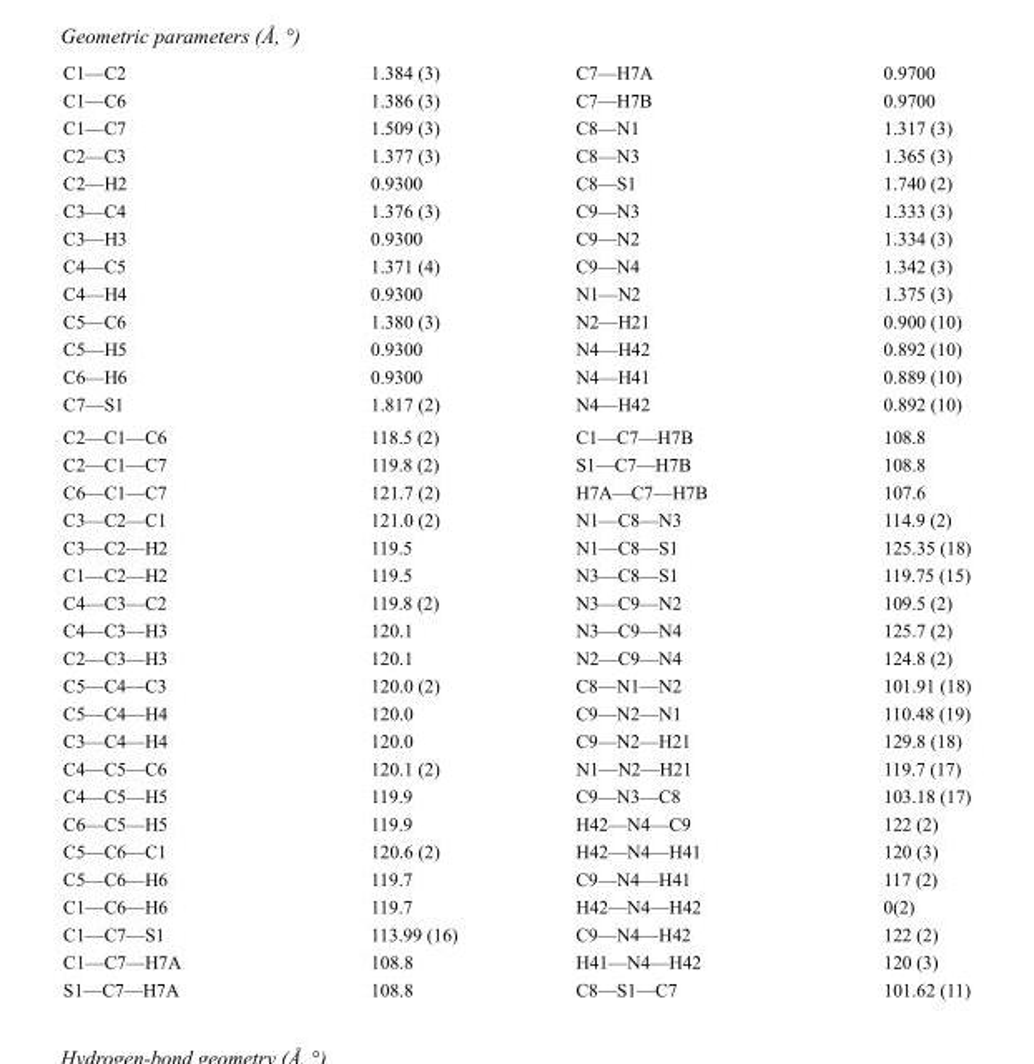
<table><tbody><tr><td>C1—C2</td><td>1.384 (3)</td><td>C7—H7A</td><td>0.9700</td></tr><tr><td>C1—C6</td><td>1.386 (3)</td><td>C7—H7B</td><td>0.9700</td></tr><tr><td>C1—C7</td><td>1.509 (3)</td><td>C8—N1</td><td>1.317 (3)</td></tr><tr><td>C2—C3</td><td>1.377 (3)</td><td>C8—N3</td><td>1.365 (3)</td></tr><tr><td>C2—H2</td><td>0.9300</td><td>C8—S1</td><td>1.740 (2)</td></tr><tr><td>C3—C4</td><td>1.376 (3)</td><td>C9—N3</td><td>1.333 (3)</td></tr><tr><td>C3—H3</td><td>0.9300</td><td>C9—N2</td><td>1.334 (3)</td></tr><tr><td>C4—C5</td><td>1.371 (4)</td><td>C9—N4</td><td>1.342 (3)</td></tr><tr><td>C4—H4</td><td>0.9300</td><td>N1—N2</td><td>1.375 (3)</td></tr><tr><td>C5—C6</td><td>1.380 (3)</td><td>N2—H21</td><td>0.900 (10)</td></tr><tr><td>C5—H5</td><td>0.9300</td><td>N4—H42</td><td>0.892 (10)</td></tr><tr><td>C6—H6</td><td>0.9300</td><td>N4—H41</td><td>0.889 (10)</td></tr><tr><td>C7—S1</td><td>1.817 (2)</td><td>N4—H42</td><td>0.892 (10)</td></tr><tr><td>C2—C1—C6</td><td>118.5 (2)</td><td>C1—C7—H7B</td><td>108.8</td></tr><tr><td>C2—C1—C7</td><td>119.8 (2)</td><td>S1—C7—H7B</td><td>108.8</td></tr><tr><td>C6—C1—C7</td><td>121.7 (2)</td><td>H7A—C7—H7B</td><td>107.6</td></tr><tr><td>C3—C2—C1</td><td>121.0 (2)</td><td>N1—C8—N3</td><td>114.9 (2)</td></tr><tr><td>C3—C2—H2</td><td>119.5</td><td>N1—C8—S1</td><td>125.35 (18)</td></tr><tr><td>C1—C2—H2</td><td>119.5</td><td>N3—C8—S1</td><td>119.75 (15)</td></tr><tr><td>C4—C3—C2</td><td>119.8 (2)</td><td>N3—C9—N2</td><td>109.5 (2)</td></tr><tr><td>C4—C3—H3</td><td>120.1</td><td>N3—C9—N4</td><td>125.7 (2)</td></tr><tr><td>C2—C3—H3</td><td>120.1</td><td>N2—C9—N4</td><td>124.8 (2)</td></tr><tr><td>C5—C4—C3</td><td>120.0 (2)</td><td>C8—N1—N2</td><td>101.91 (18)</td></tr><tr><td>C5—C4—H4</td><td>120.0</td><td>C9—N2—N1</td><td>110.48 (19)</td></tr><tr><td>C3—C4—H4</td><td>120.0</td><td>C9—N2—H21</td><td>129.8 (18)</td></tr><tr><td>C4—C5—C6</td><td>120.1 (2)</td><td>N1—N2—H21</td><td>119.7 (17)</td></tr><tr><td>C4—C5—H5</td><td>119.9</td><td>C9—N3—C8</td><td>103.18 (17)</td></tr><tr><td>C6—C5—H5</td><td>119.9</td><td>H42—N4—C9</td><td>122 (2)</td></tr><tr><td>C5—C6—C1</td><td>120.6 (2)</td><td>H42—N4—H41</td><td>120 (3)</td></tr><tr><td>C5—C6—H6</td><td>119.7</td><td>C9—N4—H41</td><td>117 (2)</td></tr><tr><td>C1—C6—H6</td><td>119.7</td><td>H42—N4—H42</td><td>0(2)</td></tr><tr><td>C1—C7—S1</td><td>113.99 (16)</td><td>C9—N4—H42</td><td>122 (2)</td></tr><tr><td>C1—C7—H7A</td><td>108.8</td><td>H41—N4—H42</td><td>120 (3)</td></tr><tr><td>S1—C7—H7A</td><td>108.8</td><td>C8—S1—C7</td><td>101.62 (11)</td></tr></tbody></table>